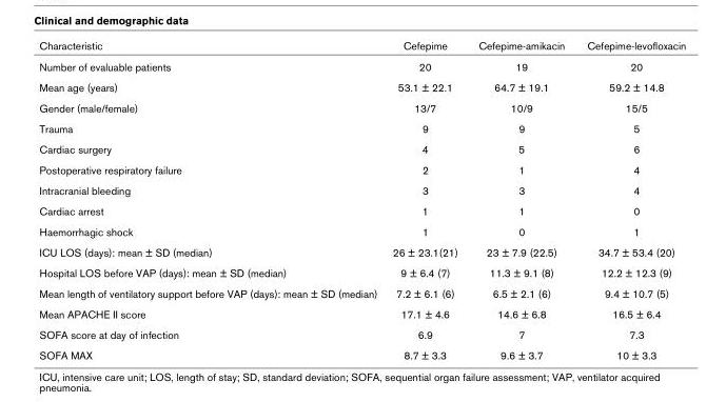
<table><thead><tr><td>Characteristic</td><td>Cefepime</td><td>Cefepime-amikacin</td><td>Cefepime-levofloxacin</td></tr></thead><tbody><tr><td>Number of evaluable patients</td><td>20</td><td>19</td><td>20</td></tr><tr><td>Mean age (years)</td><td>53.1 ± 22.1</td><td>64.7 ± 19.1</td><td>59.2 ± 14.8</td></tr><tr><td>Gender (male/female)</td><td>13/7</td><td>10/9</td><td>15/5</td></tr><tr><td>Trauma</td><td>9</td><td>9</td><td>5</td></tr><tr><td>Cardiac surgery</td><td>4</td><td>5</td><td>6</td></tr><tr><td>Postoperative respiratory failure</td><td>2</td><td>1</td><td>4</td></tr><tr><td>Intracranial bleeding</td><td>3</td><td>3</td><td>4</td></tr><tr><td>Cardiac arrest</td><td>1</td><td>1</td><td>0</td></tr><tr><td>Haemorrhagic shock</td><td>1</td><td>0</td><td>1</td></tr><tr><td>ICU LOS (days): mean ± SD (median)</td><td>26 ± 23.1(21)</td><td>23 ± 7.9 (22.5)</td><td>34.7 ± 53.4 (20)</td></tr><tr><td>Hospital LOS before VAP (days): mean ± SD (median)</td><td>9 ± 6.4 (7)</td><td>11.3 ± 9.1 (8)</td><td>12.2 ± 12.3 (9)</td></tr><tr><td>Mean length of ventilatory support before VAP (days): mean ± SD (median)</td><td>7.2 ± 6.1 (6)</td><td>6.5 ± 2.1 (6)</td><td>9.4 ± 10.7 (5)</td></tr><tr><td>Mean APACHE II score</td><td>17.1 ± 4.6</td><td>14.6 ± 6.8</td><td>16.5 ± 6.4</td></tr><tr><td>SOFA score at day of infection</td><td>6.9</td><td>7</td><td>7.3</td></tr><tr><td>SOFA MAX</td><td>8.7 ± 3.3</td><td>9.6 ± 3.7</td><td>10 ± 3.3</td></tr></tbody></table>